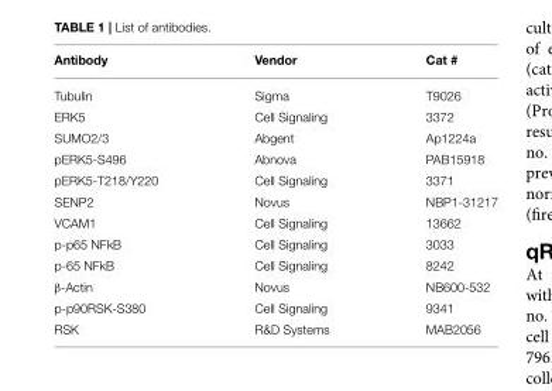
<table><thead><tr><td>Antibody</td><td>Vendor</td><td>Cat #</td></tr></thead><tbody><tr><td>Tubulin</td><td>Sigma</td><td>T9026</td></tr><tr><td>ERK5</td><td>Cell Signaling</td><td>3372</td></tr><tr><td>SUMO2/3</td><td>Abgent</td><td>Ap1224a</td></tr><tr><td>pERK5-S496</td><td>Abnova</td><td>PAB15918</td></tr><tr><td>pERK5-T218/Y220</td><td>Cell Signaling</td><td>3371</td></tr><tr><td>SENP2</td><td>Novus</td><td>NBP1-31217</td></tr><tr><td>VCAM1</td><td>Cell Signaling</td><td>13662</td></tr><tr><td>p-p65 NFkB</td><td>Cell Signaling</td><td>3033</td></tr><tr><td>p-65 NFkB</td><td>Cell Signaling</td><td>8242</td></tr><tr><td>β-Actin</td><td>Novus</td><td>NB600-532</td></tr><tr><td>p-p90RSK-S380</td><td>Cell Signaling</td><td>9341</td></tr><tr><td>RSK</td><td>R&amp;D Systems</td><td>MAB2056</td></tr></tbody></table>